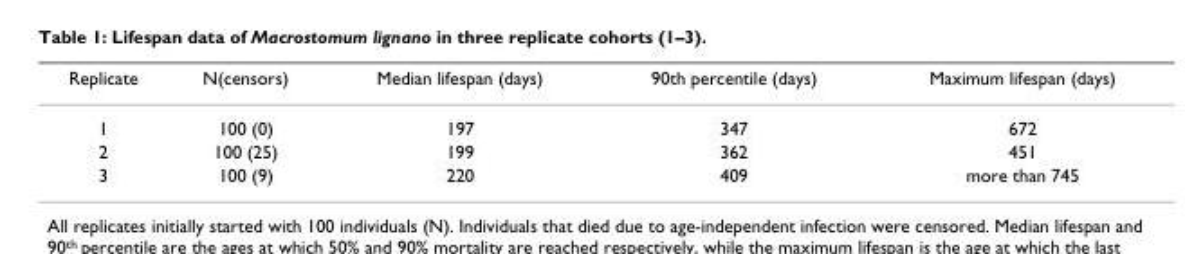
<table><thead><tr><td>Replicate</td><td>N(censors)</td><td>Median lifespan (days)</td><td>90th percentile (days)</td><td>Maximum lifespan (days)</td></tr></thead><tbody><tr><td>1</td><td>100 (0)</td><td>197</td><td>347</td><td>672</td></tr><tr><td>2</td><td>100 (25)</td><td>199</td><td>362</td><td>451</td></tr><tr><td>3</td><td>100 (9)</td><td>220</td><td>409</td><td>more than 745</td></tr></tbody></table>